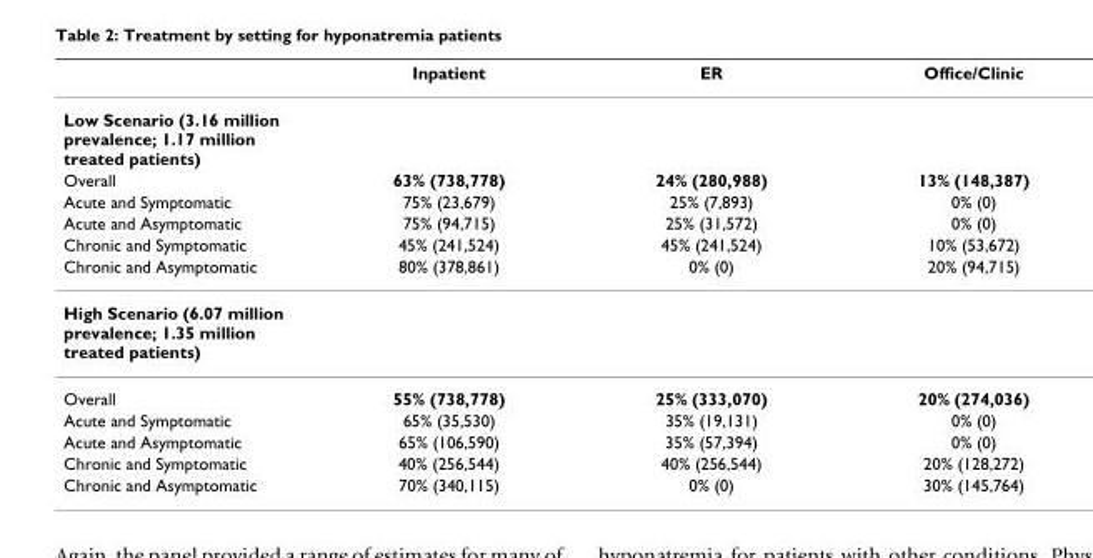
<table><thead><tr><td></td><td>Inpatient</td><td>ER</td><td>Office/Clinic</td></tr></thead><tbody><tr><td colspan="4">Low Scenario (3.16 million prevalence; 1.17 million treated patients)</td></tr><tr><td>Overall</td><td>63% (738,778)</td><td>24% (280,988)</td><td>13% (148,387)</td></tr><tr><td>Acute and Symptomatic</td><td>75% (23,679)</td><td>25% (7,893)</td><td>0% (0)</td></tr><tr><td>Acute and Asymptomatic</td><td>75% (94,715)</td><td>25% (31,572)</td><td>0% (0)</td></tr><tr><td>Chronic and Symptomatic</td><td>45% (241,524)</td><td>45% (241,524)</td><td>10% (53,672)</td></tr><tr><td>Chronic and Asymptomatic</td><td>80% (378,861)</td><td>0% (0)</td><td>20% (94,715)</td></tr><tr><td colspan="4">High Scenario (6.07 million prevalence; 1.35 million treated patients)</td></tr><tr><td>Overall</td><td>55% (738,778)</td><td>25% (333,070)</td><td>20% (274,036)</td></tr><tr><td>Acute and Symptomatic</td><td>65% (35,530)</td><td>35% (19,131)</td><td>0% (0)</td></tr><tr><td>Acute and Asymptomatic</td><td>65% (106,590)</td><td>35% (57,394)</td><td>0% (0)</td></tr><tr><td>Chronic and Symptomatic</td><td>40% (256,544)</td><td>40% (256,544)</td><td>20% (128,272)</td></tr><tr><td>Chronic and Asymptomatic</td><td>70% (340,115)</td><td>0% (0)</td><td>30% (145,764)</td></tr></tbody></table>